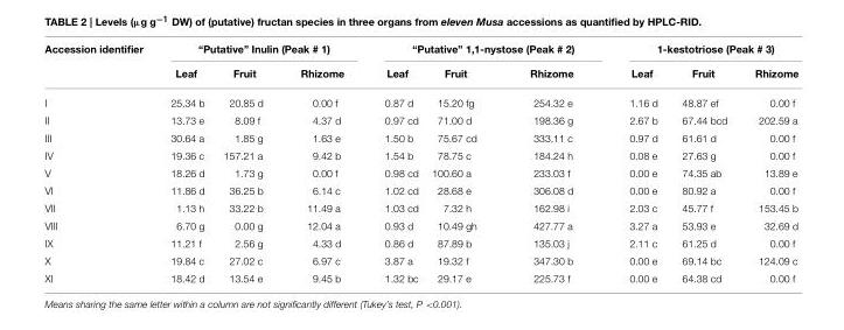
<table><thead><tr><td rowspan="2">Accession identifier</td><td colspan="3">“Putative” Inulin (Peak # 1)</td><td colspan="3">“Putative” 1,1-nystose (Peak # 2)</td><td colspan="3">1-kestotriose (Peak # 3)</td></tr><tr><td>Leaf</td><td>Fruit</td><td>Rhizome</td><td>Leaf</td><td>Fruit</td><td>Rhizome</td><td>Leaf</td><td>Fruit</td><td>Rhizome</td></tr></thead><tbody><tr><td>I</td><td>25.34 b</td><td>20.85 d</td><td>0.00 f</td><td>0.87 d</td><td>15.20 fg</td><td>254.32 e</td><td>1.16 d</td><td>48.87 ef</td><td>0.00 f</td></tr><tr><td>II</td><td>13.73 e</td><td>8.09 f</td><td>4.37 d</td><td>0.97 cd</td><td>71.00 d</td><td>198.36 g</td><td>2.67 b</td><td>67.44 bcd</td><td>202.59 a</td></tr><tr><td>III</td><td>30.64 a</td><td>1.85 g</td><td>1.63 e</td><td>1.50 b</td><td>75.67 cd</td><td>333.11 c</td><td>0.97 d</td><td>61.61 d</td><td>0.00 f</td></tr><tr><td>IV</td><td>19.36 c</td><td>157.21 a</td><td>9.42 b</td><td>1.54 b</td><td>78.75 c</td><td>184.24 h</td><td>0.08 e</td><td>27.63 g</td><td>0.00 f</td></tr><tr><td>V</td><td>18.26 d</td><td>1.73 g</td><td>0.00 f</td><td>0.98 cd</td><td>100.60 a</td><td>233.03 f</td><td>0.00 e</td><td>74.35 ab</td><td>13.89 e</td></tr><tr><td>VI</td><td>11.86 d</td><td>36.25 b</td><td>6.14 c</td><td>1.02 cd</td><td>28.68 e</td><td>306.08 d</td><td>0.00 e</td><td>80.92 a</td><td>0.00 f</td></tr><tr><td>VII</td><td>1.13 h</td><td>33.22 b</td><td>11.49 a</td><td>1.03 cd</td><td>7.32 h</td><td>162.98 i</td><td>2.03 c</td><td>45.77 f</td><td>153.45 b</td></tr><tr><td>VIII</td><td>6.70 g</td><td>0.00 g</td><td>12.04 a</td><td>0.93 d</td><td>10.49 gh</td><td>427.77 a</td><td>3.27 a</td><td>53.93 e</td><td>32.69 d</td></tr><tr><td>IX</td><td>11.21 f</td><td>2.56 g</td><td>4.33 d</td><td>0.86 d</td><td>87.89 b</td><td>135.03 j</td><td>2.11 c</td><td>61.25 d</td><td>0.00 f</td></tr><tr><td>X</td><td>19.84 c</td><td>27.02 c</td><td>6.97 c</td><td>3.87 a</td><td>19.32 f</td><td>347.30 b</td><td>0.00 e</td><td>69.14 bc</td><td>124.09 c</td></tr><tr><td>XI</td><td>18.42 d</td><td>13.54 e</td><td>9.45 b</td><td>1.32 bc</td><td>29.17 e</td><td>225.73 f</td><td>0.00 e</td><td>64.38 cd</td><td>0.00 f</td></tr></tbody></table>